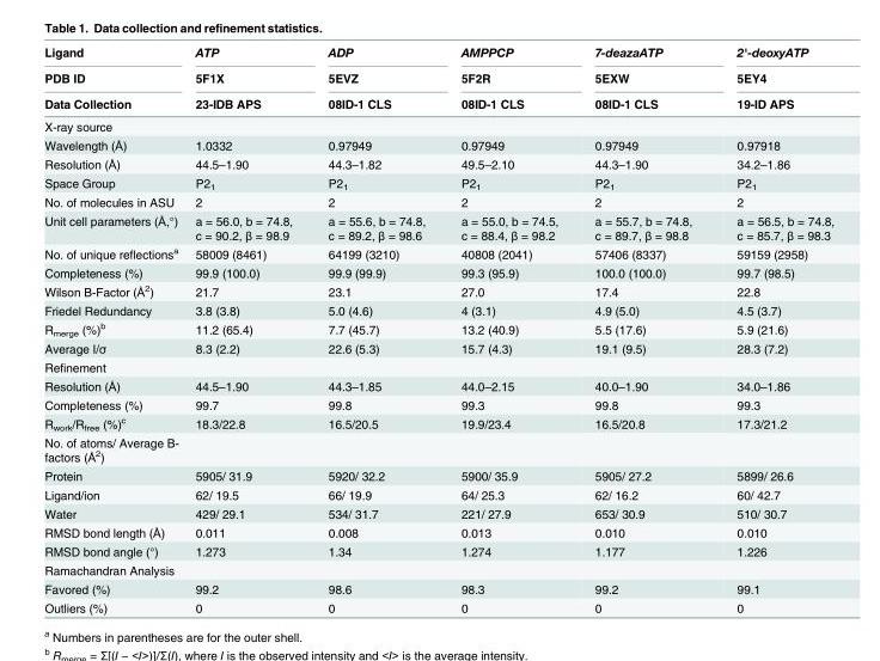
<table><thead><tr><td rowspan="3">Ligand PDB ID Data Collection</td><td rowspan="3">ATP 5F1X 23-IDB APS</td><td rowspan="3">ADP 5EVZ 08ID-1 CLS</td><td rowspan="3">AMPPCP 5F2R 08ID-1 CLS</td><td rowspan="3">7-deazaATP 5EXW 08ID-1 CLS</td><td rowspan="3">2&#x27;-deoxyATP 5EY4 19-ID APS</td></tr><tr></tr><tr></tr></thead><tbody><tr><td colspan="6">X-ray source</td></tr><tr><td>Wavelength (Å)</td><td>1.0332</td><td>0.97949</td><td>0.97949</td><td>0.97949</td><td>0.97918</td></tr><tr><td>Resolution (Å)</td><td>44.5–1.90</td><td>44.3–1.82</td><td>49.5–2.10</td><td>44.3–1.90</td><td>34.2–1.86</td></tr><tr><td>Space Group</td><td>P2<sub>1</sub></td><td>P2<sub>1</sub></td><td>P2<sub>1</sub></td><td>P2<sub>1</sub></td><td>P2<sub>1</sub></td></tr><tr><td>No. of molecules in ASU</td><td>2</td><td>2</td><td>2</td><td>2</td><td>2</td></tr><tr><td>Unit cell parameters (Å,°)</td><td>a = 56.0, b = 74.8, c = 90.2, β = 98.9</td><td>a = 55.6, b = 74.8, c = 89.2, β = 98.6</td><td>a = 55.0, b = 74.5, c = 88.4, β = 98.2</td><td>a = 55.7, b = 74.8, c = 89.7, β = 98.8</td><td>a = 56.5, b = 74.8, c = 85.7, β = 98.3</td></tr><tr><td>No. of unique reflections<sup>a</sup></td><td>58009 (8461)</td><td>64199 (3210)</td><td>40808 (2041)</td><td>57406 (8337)</td><td>59159 (2958)</td></tr><tr><td>Completeness (%)</td><td>99.9 (100.0)</td><td>99.9 (99.9)</td><td>99.3 (95.9)</td><td>100.0 (100.0)</td><td>99.7 (98.5)</td></tr><tr><td>Wilson B-Factor (Å<sup>2</sup>)</td><td>21.7</td><td>23.1</td><td>27.0</td><td>17.4</td><td>22.8</td></tr><tr><td>Friedel Redundancy</td><td>3.8 (3.8)</td><td>5.0 (4.6)</td><td>4 (3.1)</td><td>4.9 (5.0)</td><td>4.5 (3.7)</td></tr><tr><td>R<sub>merge</sub> (%)<sup>b</sup></td><td>11.2 (65.4)</td><td>7.7 (45.7)</td><td>13.2 (40.9)</td><td>5.5 (17.6)</td><td>5.9 (21.6)</td></tr><tr><td>Average I/σ</td><td>8.3 (2.2)</td><td>22.6 (5.3)</td><td>15.7 (4.3)</td><td>19.1 (9.5)</td><td>28.3 (7.2)</td></tr><tr><td colspan="6">Refinement</td></tr><tr><td>Resolution (Å)</td><td>44.5–1.90</td><td>44.3–1.85</td><td>44.0–2.15</td><td>40.0–1.90</td><td>34.0–1.86</td></tr><tr><td>Completeness (%)</td><td>99.7</td><td>99.8</td><td>99.3</td><td>99.8</td><td>99.3</td></tr><tr><td>R<sub>work</sub>/R<sub>free</sub> (%)<sup>c</sup></td><td>18.3/22.8</td><td>16.5/20.5</td><td>19.9/23.4</td><td>16.5/20.8</td><td>17.3/21.2</td></tr><tr><td colspan="6">No. of atoms/ Average B- factors (Å<sup>2</sup>)</td></tr><tr><td>Protein</td><td>5905/ 31.9</td><td>5920/ 32.2</td><td>5900/ 35.9</td><td>5905/ 27.2</td><td>5899/ 26.6</td></tr><tr><td>Ligand/ion</td><td>62/ 19.5</td><td>66/ 19.9</td><td>64/ 25.3</td><td>62/ 16.2</td><td>60/ 42.7</td></tr><tr><td>Water</td><td>429/ 29.1</td><td>534/ 31.7</td><td>221/ 27.9</td><td>653/ 30.9</td><td>510/ 30.7</td></tr><tr><td>RMSD bond length (Å)</td><td>0.011</td><td>0.008</td><td>0.013</td><td>0.010</td><td>0.010</td></tr><tr><td>RMSD bond angle (°)</td><td>1.273</td><td>1.34</td><td>1.274</td><td>1.177</td><td>1.226</td></tr><tr><td colspan="6">Ramachandran Analysis</td></tr><tr><td>Favored (%)</td><td>99.2</td><td>98.6</td><td>98.3</td><td>99.2</td><td>99.1</td></tr><tr><td>Outliers (%)</td><td>0</td><td>0</td><td>0</td><td>0</td><td>0</td></tr></tbody></table>